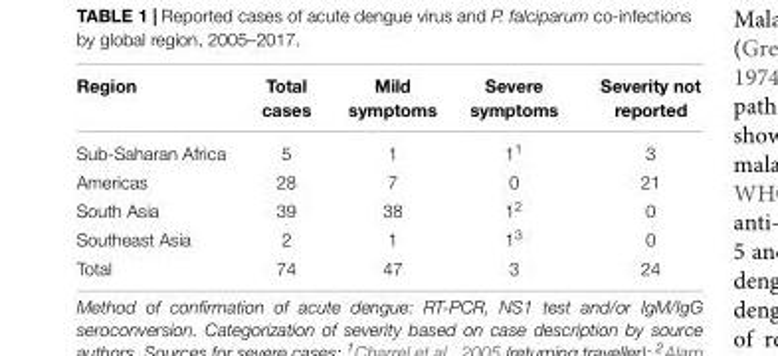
<table><thead><tr><td>Region</td><td>Total cases</td><td>Mild symptoms</td><td>Severe symptoms</td><td>Severity not reported</td></tr></thead><tbody><tr><td>Sub-Saharan Africa</td><td>5</td><td>1</td><td>1<sup>1</sup></td><td>3</td></tr><tr><td>Americas</td><td>28</td><td>7</td><td>0</td><td>21</td></tr><tr><td>South Asia</td><td>39</td><td>38</td><td>1<sup>2</sup></td><td>0</td></tr><tr><td>Southeast Asia</td><td>2</td><td>1</td><td>1<sup>3</sup></td><td>0</td></tr><tr><td>Total</td><td>74</td><td>47</td><td>3</td><td>24</td></tr></tbody></table>